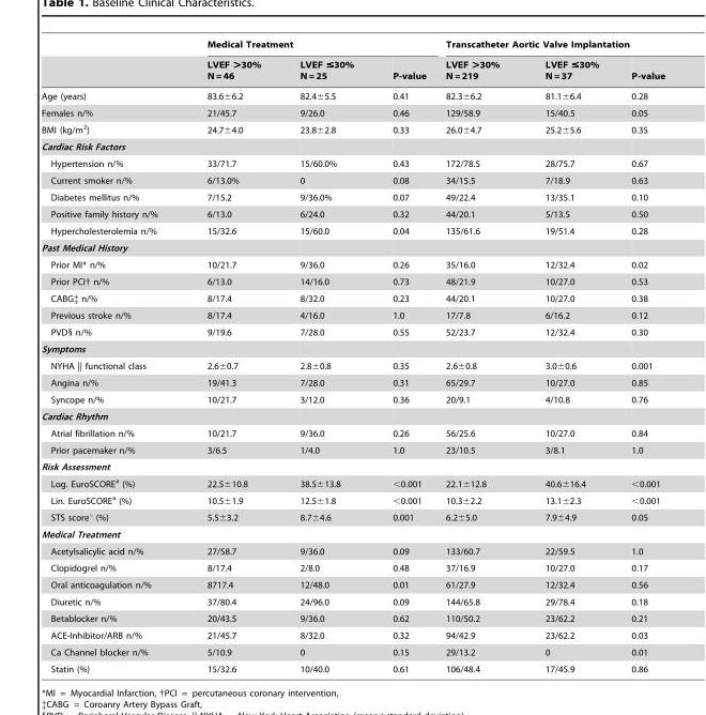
<table><thead><tr><td rowspan="2"></td><td colspan="3">Medical Treatment</td><td colspan="3">Transcatheter Aortic Valve Implantation</td></tr><tr><td>LVEF &gt;30% N = 46</td><td>LVEF ≤30% N = 25</td><td>P-value</td><td>LVEF &gt;30% N = 219</td><td>LVEF ≤30% N = 37</td><td>P-value</td></tr></thead><tbody><tr><td>Age (years)</td><td>83.6±6.2</td><td>82.4±5.5</td><td>0.41</td><td>82.3±6.2</td><td>81.1±6.4</td><td>0.28</td></tr><tr><td>Females n/%</td><td>21/45.7</td><td>9/26.0</td><td>0.46</td><td>129/58.9</td><td>15/40.5</td><td>0.05</td></tr><tr><td>BMI (kg/m<sup>2</sup>)</td><td>24.7±4.0</td><td>23.8±2.8</td><td>0.33</td><td>26.0±4.7</td><td>25.2±5.6</td><td>0.35</td></tr><tr><td colspan="7">Cardiac Risk Factors</td></tr><tr><td>Hypertension n/%</td><td>33/71.7</td><td>15/60.0%</td><td>0.43</td><td>172/78.5</td><td>28/75.7</td><td>0.67</td></tr><tr><td>Current smoker n/%</td><td>6/13.0%</td><td>0</td><td>0.08</td><td>34/15.5</td><td>7/18.9</td><td>0.63</td></tr><tr><td>Diabetes mellitus n/%</td><td>7/15.2</td><td>9/36.0%</td><td>0.07</td><td>49/22.4</td><td>13/35.1</td><td>0.10</td></tr><tr><td>Positive family history n/%</td><td>6/13.0</td><td>6/24.0</td><td>0.32</td><td>44/20.1</td><td>5/13.5</td><td>0.50</td></tr><tr><td>Hypercholesterolemia n/%</td><td>15/32.6</td><td>15/60.0</td><td>0.04</td><td>135/61.6</td><td>19/51.4</td><td>0.28</td></tr><tr><td colspan="7">Past Medical History</td></tr><tr><td>Prior MI* n/%</td><td>10/21.7</td><td>9/36.0</td><td>0.26</td><td>35/16.0</td><td>12/32.4</td><td>0.02</td></tr><tr><td>Prior PCI† n/%</td><td>6/13.0</td><td>14/16.0</td><td>0.73</td><td>48/21.9</td><td>10/27.0</td><td>0.53</td></tr><tr><td>CABG‡ n/%</td><td>8/17.4</td><td>8/32.0</td><td>0.23</td><td>44/20.1</td><td>10/27.0</td><td>0.38</td></tr><tr><td>Previous stroke n/%</td><td>8/17.4</td><td>4/16.0</td><td>1.0</td><td>17/7.8</td><td>6/16.2</td><td>0.12</td></tr><tr><td>PVD§ n/%</td><td>9/19.6</td><td>7/28.0</td><td>0.55</td><td>52/23.7</td><td>12/32.4</td><td>0.30</td></tr><tr><td colspan="7">Symptoms</td></tr><tr><td>NYHA || functional class</td><td>2.6±0.7</td><td>2.8±0.8</td><td>0.35</td><td>2.6±0.8</td><td>3.0±0.6</td><td>0.001</td></tr><tr><td>Angina n/%</td><td>19/41.3</td><td>7/28.0</td><td>0.31</td><td>65/29.7</td><td>10/27.0</td><td>0.85</td></tr><tr><td>Syncope n/%</td><td>10/21.7</td><td>3/12.0</td><td>0.36</td><td>20/9.1</td><td>4/10.8</td><td>0.76</td></tr><tr><td colspan="7">Cardiac Rhythm</td></tr><tr><td>Atrial fibrillation n/%</td><td>10/21.7</td><td>9/36.0</td><td>0.26</td><td>56/25.6</td><td>10/27.0</td><td>0.84</td></tr><tr><td>Prior pacemaker n/%</td><td>3/6.5</td><td>1/4.0</td><td>1.0</td><td>23/10.5</td><td>3/8.1</td><td>1.0</td></tr><tr><td colspan="7">Risk Assessment</td></tr><tr><td>Log. EuroSCORE<sup>a</sup> (%)</td><td>22.5±10.8</td><td>38.5±13.8</td><td>&lt;0.001</td><td>22.1±12.8</td><td>40.6±16.4</td><td>&lt;0.001</td></tr><tr><td>Lin. EuroSCORE<sup>a</sup> (%)</td><td>10.5±1.9</td><td>12.5±1.8</td><td>&lt;0.001</td><td>10.3±2.2</td><td>13.1±2.3</td><td>&lt;0.001</td></tr><tr><td>STS score° (%)</td><td>5.5±3.2</td><td>8.7±4.6</td><td>0.001</td><td>6.2±5.0</td><td>7.9±4.9</td><td>0.05</td></tr><tr><td colspan="7">Medical Treatment</td></tr><tr><td>Acetylsalicylic acid n/%</td><td>27/58.7</td><td>9/36.0</td><td>0.09</td><td>133/60.7</td><td>22/59.5</td><td>1.0</td></tr><tr><td>Clopidogrel n/%</td><td>8/17.4</td><td>2/8.0</td><td>0.48</td><td>37/16.9</td><td>10/27.0</td><td>0.17</td></tr><tr><td>Oral anticoagulation n/%</td><td>8717.4</td><td>12/48.0</td><td>0.01</td><td>61/27.9</td><td>12/32.4</td><td>0.56</td></tr><tr><td>Diuretic n/%</td><td>37/80.4</td><td>24/96.0</td><td>0.09</td><td>144/65.8</td><td>29/78.4</td><td>0.18</td></tr><tr><td>Betablocker n/%</td><td>20/43.5</td><td>9/36.0</td><td>0.62</td><td>110/50.2</td><td>23/62.2</td><td>0.21</td></tr><tr><td>ACE-Inhibitor/ARB n/%</td><td>21/45.7</td><td>8/32.0</td><td>0.32</td><td>94/42.9</td><td>23/62.2</td><td>0.03</td></tr><tr><td>Ca Channel blocker n/%</td><td>5/10.9</td><td>0</td><td>0.15</td><td>29/13.2</td><td>0</td><td>0.01</td></tr><tr><td>Statin (%)</td><td>15/32.6</td><td>10/40.0</td><td>0.61</td><td>106/48.4</td><td>17/45.9</td><td>0.86</td></tr></tbody></table>